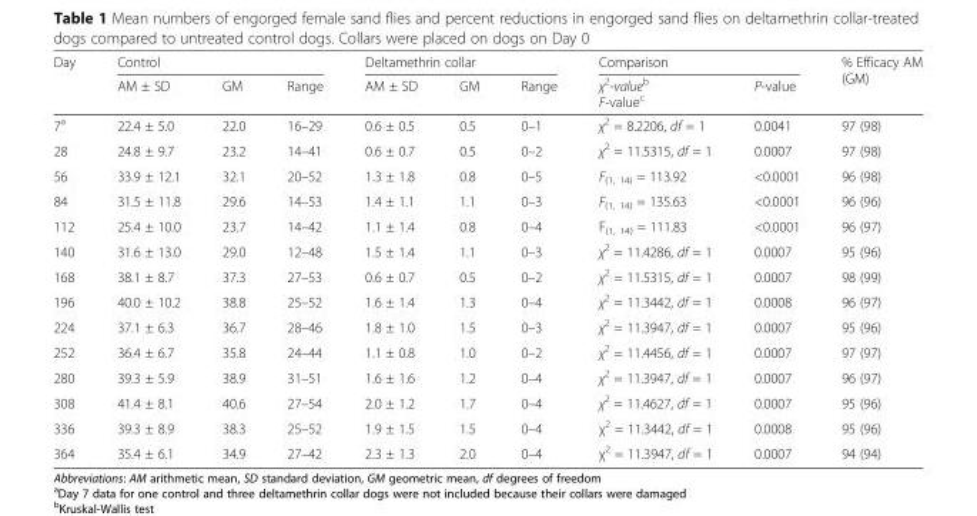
<table><thead><tr><td rowspan="2">Day</td><td colspan="3">Control</td><td colspan="3">Deltamethrin collar</td><td colspan="2">Comparison</td><td rowspan="2">% Efficacy AM (GM)</td></tr><tr><td>AM ± SD</td><td>GM</td><td>Range</td><td>AM ± SD</td><td>GM</td><td>Range</td><td>χ<sup>2</sup>-value<sup>b</sup> F-value<sup>c</sup></td><td>P-value</td></tr></thead><tbody><tr><td>7<sup>a</sup></td><td>22.4 ± 5.0</td><td>22.0</td><td>16–29</td><td>0.6 ± 0.5</td><td>0.5</td><td>0–1</td><td>χ<sup>2</sup> = 8.2206, df = 1</td><td>0.0041</td><td>97 (98)</td></tr><tr><td>28</td><td>24.8 ± 9.7</td><td>23.2</td><td>14–41</td><td>0.6 ± 0.7</td><td>0.5</td><td>0–2</td><td>χ<sup>2</sup> = 11.5315, df = 1</td><td>0.0007</td><td>97 (98)</td></tr><tr><td>56</td><td>33.9 ± 12.1</td><td>32.1</td><td>20–52</td><td>1.3 ± 1.8</td><td>0.8</td><td>0–5</td><td>F<sub>(1, 14)</sub> = 113.92</td><td>&lt;0.0001</td><td>96 (98)</td></tr><tr><td>84</td><td>31.5 ± 11.8</td><td>29.6</td><td>14–53</td><td>1.4 ± 1.1</td><td>1.1</td><td>0–3</td><td>F<sub>(1, 14)</sub> = 135.63</td><td>&lt;0.0001</td><td>96 (96)</td></tr><tr><td>112</td><td>25.4 ± 10.0</td><td>23.7</td><td>14–42</td><td>1.1 ± 1.4</td><td>0.8</td><td>0–4</td><td>F<sub>(1, 14)</sub> = 111.83</td><td>&lt;0.0001</td><td>96 (97)</td></tr><tr><td>140</td><td>31.6 ± 13.0</td><td>29.0</td><td>12–48</td><td>1.5 ± 1.4</td><td>1.1</td><td>0–3</td><td>χ<sup>2</sup> = 11.4286, df = 1</td><td>0.0007</td><td>95 (96)</td></tr><tr><td>168</td><td>38.1 ± 8.7</td><td>37.3</td><td>27–53</td><td>0.6 ± 0.7</td><td>0.5</td><td>0–2</td><td>χ<sup>2</sup> = 11.5315, df = 1</td><td>0.0007</td><td>98 (99)</td></tr><tr><td>196</td><td>40.0 ± 10.2</td><td>38.8</td><td>25–52</td><td>1.6 ± 1.4</td><td>1.3</td><td>0–4</td><td>χ<sup>2</sup> = 11.3442, df = 1</td><td>0.0008</td><td>96 (97)</td></tr><tr><td>224</td><td>37.1 ± 6.3</td><td>36.7</td><td>28–46</td><td>1.8 ± 1.0</td><td>1.5</td><td>0–3</td><td>χ<sup>2</sup> = 11.3947, df = 1</td><td>0.0007</td><td>95 (96)</td></tr><tr><td>252</td><td>36.4 ± 6.7</td><td>35.8</td><td>24–44</td><td>1.1 ± 0.8</td><td>1.0</td><td>0–2</td><td>χ<sup>2</sup> = 11.4456, df = 1</td><td>0.0007</td><td>97 (97)</td></tr><tr><td>280</td><td>39.3 ± 5.9</td><td>38.9</td><td>31–51</td><td>1.6 ± 1.6</td><td>1.2</td><td>0–4</td><td>χ<sup>2</sup> = 11.3947, df = 1</td><td>0.0007</td><td>96 (97)</td></tr><tr><td>308</td><td>41.4 ± 8.1</td><td>40.6</td><td>27–54</td><td>2.0 ± 1.2</td><td>1.7</td><td>0–4</td><td>χ<sup>2</sup> = 11.4627, df = 1</td><td>0.0007</td><td>95 (96)</td></tr><tr><td>336</td><td>39.3 ± 8.9</td><td>38.3</td><td>25–52</td><td>1.9 ± 1.5</td><td>1.5</td><td>0–4</td><td>χ<sup>2</sup> = 11.3442, df = 1</td><td>0.0008</td><td>95 (96)</td></tr><tr><td>364</td><td>35.4 ± 6.1</td><td>34.9</td><td>27–42</td><td>2.3 ± 1.3</td><td>2.0</td><td>0–4</td><td>χ<sup>2</sup> = 11.3947, df = 1</td><td>0.0007</td><td>94 (94)</td></tr></tbody></table>